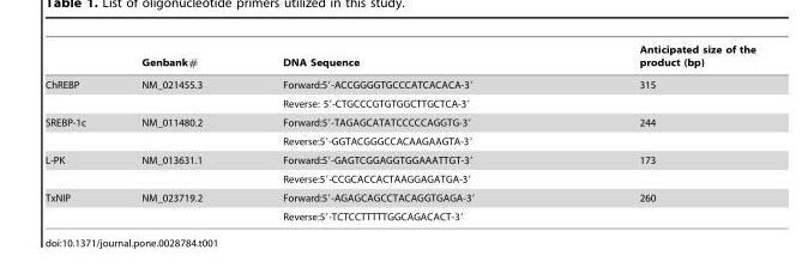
<table><thead><tr><td></td><td>Genbank#</td><td>DNA Sequence</td><td>Anticipated size of the product (bp)</td></tr></thead><tbody><tr><td rowspan="2">ChREBP</td><td>NM_021455.3</td><td>Forward:5′-ACCGGGGTGCCCATCACACA-3′</td><td>315</td></tr><tr><td></td><td>Reverse: 5′-CTGCCCGTGTGGCTTGCTCA-3′</td><td></td></tr><tr><td rowspan="2">SREBP-1c</td><td>NM_011480.2</td><td>Forward:5′-TAGAGCATATCCCCCAGGTG-3′</td><td>244</td></tr><tr><td></td><td>Reverse:5′-GGTACGGGCCACAAGAAGTA-3′</td><td></td></tr><tr><td rowspan="2">L-PK</td><td>NM_013631.1</td><td>Forward:5′-GAGTCGGAGGTGGAAATTGT-3′</td><td>173</td></tr><tr><td></td><td>Reverse:5′-CCGCACCACTAAGGAGATGA-3′</td><td></td></tr><tr><td rowspan="2">TxNIP</td><td>NM_023719.2</td><td>Forward:5′-AGAGCAGCCTACAGGTGAGA-3′</td><td>260</td></tr><tr><td></td><td>Reverse:5′-TCTCCTTTTTGGCAGACACT-3′</td><td></td></tr></tbody></table>